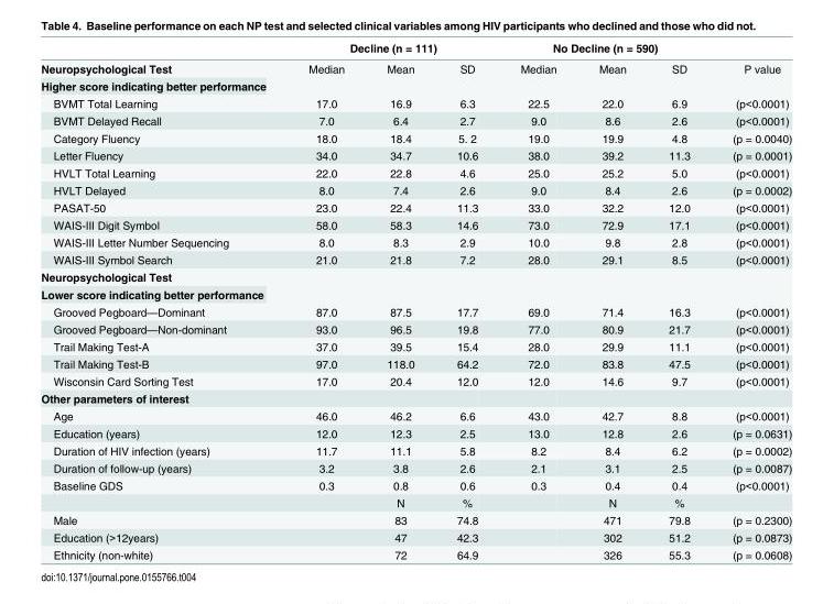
<table><thead><tr><td rowspan="2">Neuropsychological Test</td><td colspan="3">Decline (n = 111)</td><td colspan="3">No Decline (n = 590)</td><td rowspan="2">P value</td></tr><tr><td>Median</td><td>Mean</td><td>SD</td><td>Median</td><td>Mean</td><td>SD</td></tr></thead><tbody><tr><td colspan="8">Higher score indicating better performance</td></tr><tr><td>BVMT Total Learning</td><td>17.0</td><td>16.9</td><td>6.3</td><td>22.5</td><td>22.0</td><td>6.9</td><td>(p&lt;0.0001)</td></tr><tr><td>BVMT Delayed Recall</td><td>7.0</td><td>6.4</td><td>2.7</td><td>9.0</td><td>8.6</td><td>2.6</td><td>(p&lt;0.0001)</td></tr><tr><td>Category Fluency</td><td>18.0</td><td>18.4</td><td>5. 2</td><td>19.0</td><td>19.9</td><td>4.8</td><td>(p = 0.0040)</td></tr><tr><td>Letter Fluency</td><td>34.0</td><td>34.7</td><td>10.6</td><td>38.0</td><td>39.2</td><td>11.3</td><td>(p = 0.0001)</td></tr><tr><td>HVLT Total Learning</td><td>22.0</td><td>22.8</td><td>4.6</td><td>25.0</td><td>25.2</td><td>5.0</td><td>(p&lt;0.0001)</td></tr><tr><td>HVLT Delayed</td><td>8.0</td><td>7.4</td><td>2.6</td><td>9.0</td><td>8.4</td><td>2.6</td><td>(p = 0.0002)</td></tr><tr><td>PASAT-50</td><td>23.0</td><td>22.4</td><td>11.3</td><td>33.0</td><td>32.2</td><td>12.0</td><td>(p&lt;0.0001)</td></tr><tr><td>WAIS-III Digit Symbol</td><td>58.0</td><td>58.3</td><td>14.6</td><td>73.0</td><td>72.9</td><td>17.1</td><td>(p&lt;0.0001)</td></tr><tr><td>WAIS-III Letter Number Sequencing</td><td>8.0</td><td>8.3</td><td>2.9</td><td>10.0</td><td>9.8</td><td>2.8</td><td>(p&lt;0.0001)</td></tr><tr><td>WAIS-III Symbol Search</td><td>21.0</td><td>21.8</td><td>7.2</td><td>28.0</td><td>29.1</td><td>8.5</td><td>(p&lt;0.0001)</td></tr><tr><td colspan="8">Neuropsychological Test</td></tr><tr><td colspan="8">Lower score indicating better performance</td></tr><tr><td>Grooved Pegboard—Dominant</td><td>87.0</td><td>87.5</td><td>17.7</td><td>69.0</td><td>71.4</td><td>16.3</td><td>(p&lt;0.0001)</td></tr><tr><td>Grooved Pegboard—Non-dominant</td><td>93.0</td><td>96.5</td><td>19.8</td><td>77.0</td><td>80.9</td><td>21.7</td><td>(p&lt;0.0001)</td></tr><tr><td>Trail Making Test-A</td><td>37.0</td><td>39.5</td><td>15.4</td><td>28.0</td><td>29.9</td><td>11.1</td><td>(p&lt;0.0001)</td></tr><tr><td>Trail Making Test-B</td><td>97.0</td><td>118.0</td><td>64.2</td><td>72.0</td><td>83.8</td><td>47.5</td><td>(p&lt;0.0001)</td></tr><tr><td>Wisconsin Card Sorting Test</td><td>17.0</td><td>20.4</td><td>12.0</td><td>12.0</td><td>14.6</td><td>9.7</td><td>(p&lt;0.0001)</td></tr><tr><td colspan="8">Other parameters of interest</td></tr><tr><td>Age</td><td>46.0</td><td>46.2</td><td>6.6</td><td>43.0</td><td>42.7</td><td>8.8</td><td>(p&lt;0.0001)</td></tr><tr><td>Education (years)</td><td>12.0</td><td>12.3</td><td>2.5</td><td>13.0</td><td>12.8</td><td>2.6</td><td>(p = 0.0631)</td></tr><tr><td>Duration of HIV infection (years)</td><td>11.7</td><td>11.1</td><td>5.8</td><td>8.2</td><td>8.4</td><td>6.2</td><td>(p = 0.0002)</td></tr><tr><td>Duration of follow-up (years)</td><td>3.2</td><td>3.8</td><td>2.6</td><td>2.1</td><td>3.1</td><td>2.5</td><td>(p = 0.0087)</td></tr><tr><td rowspan="2">Baseline GDS</td><td>0.3</td><td>0.8</td><td>0.6</td><td>0.3</td><td>0.4</td><td>0.4</td><td>(p&lt;0.0001)</td></tr><tr><td></td><td>N</td><td>%</td><td></td><td>N</td><td>%</td><td></td></tr><tr><td>Male</td><td></td><td>83</td><td>74.8</td><td></td><td>471</td><td>79.8</td><td>(p = 0.2300)</td></tr><tr><td>Education (&gt;12years)</td><td></td><td>47</td><td>42.3</td><td></td><td>302</td><td>51.2</td><td>(p = 0.0873)</td></tr><tr><td>Ethnicity (non-white)</td><td></td><td>72</td><td>64.9</td><td></td><td>326</td><td>55.3</td><td>(p = 0.0608)</td></tr></tbody></table>